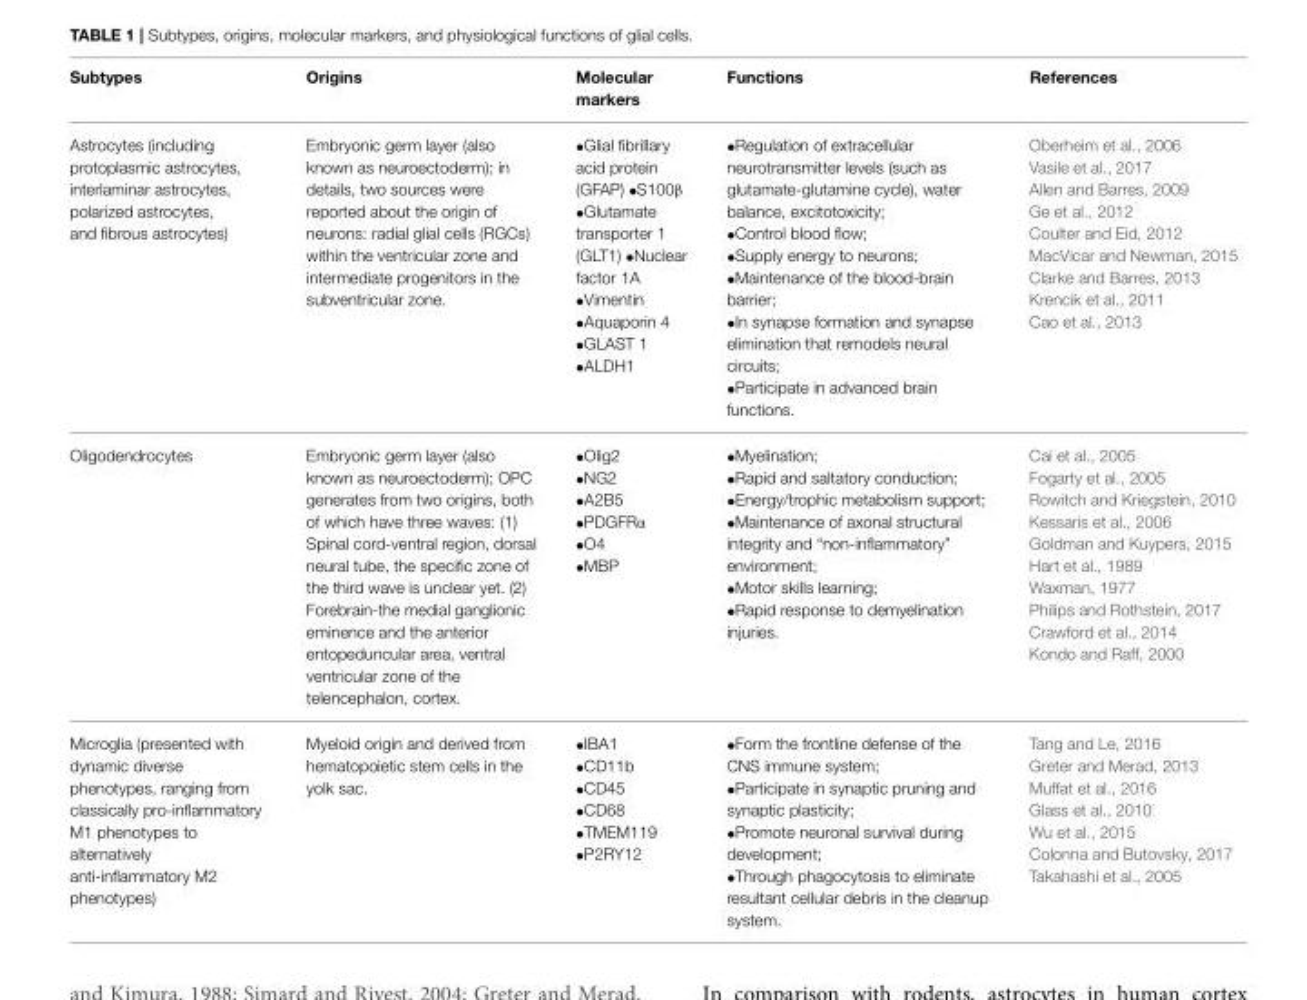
<table><thead><tr><td>Subtypes</td><td>Origins</td><td>Molecular markers</td><td>Functions</td><td>References</td></tr></thead><tbody><tr><td>Astrocytes (including protoplasmic astrocytes, interlaminar astrocytes, polarized astrocytes, and fibrous astrocytes)</td><td>Embryonic germ layer (also known as neuroectoderm); in details, two sources were reported about the origin of neurons: radial glial cells (RGCs) within the ventricular zone and intermediate progenitors in the subventricular zone.</td><td>•Glial fibrillary acid protein (GFAP) •S100β •Glutamate transporter 1 (GLT1) •Nuclear factor 1A •Vimentin •Aquaporin 4 •GLAST 1 •ALDH1</td><td>•Regulation of extracellular neurotransmitter levels (such as glutamate-glutamine cycle), water balance, excitotoxicity; •Control blood flow; •Supply energy to neurons; •Maintenance of the blood-brain barrier; •In synapse formation and synapse elimination that remodels neural circuits; •Participate in advanced brain functions.</td><td>Oberheim et al., 2006 Vasile et al., 2017 Allen and Barres, 2009 Ge et al., 2012 Coulter and Eid, 2012 MacVicar and Newman, 2015 Clarke and Barres, 2013 Krencik et al., 2011 Cao et al., 2013</td></tr><tr><td>Oligodendrocytes</td><td>Embryonic germ layer (also known as neuroectoderm); OPC generates from two origins, both of which have three waves: (1) Spinal cord-ventral region, dorsal neural tube, the specific zone of the third wave is unclear yet. (2) Forebrain-the medial ganglionic eminence and the anterior entopeduncular area, ventral ventricular zone of the telencephalon, cortex.</td><td>•Olig2 •NG2 •A2B5 •PDGFRα •O4 •MBP</td><td>•Myelination; •Rapid and saltatory conduction; •Energy/trophic metabolism support; •Maintenance of axonal structural integrity and “non-inflammatory” environment; •Motor skills learning; •Rapid response to demyelination injuries.</td><td>Cai et al., 2005 Fogarty et al., 2005 Rowitch and Kriegstein, 2010 Kessaris et al., 2006 Goldman and Kuypers, 2015 Hart et al., 1989 Waxman, 1977 Philips and Rothstein, 2017 Crawford et al., 2014 Kondo and Raff, 2000</td></tr><tr><td>Microglia (presented with dynamic diverse phenotypes, ranging from classically pro-inflammatory M1 phenotypes to alternatively anti-inflammatory M2 phenotypes)</td><td>Myeloid origin and derived from hematopoietic stem cells in the yolk sac.</td><td>•IBA1 •CD11b •CD45 •CD68 •TMEM119 •P2RY12</td><td>•Form the frontline defense of the CNS immune system; •Participate in synaptic pruning and synaptic plasticity; •Promote neuronal survival during development; •Through phagocytosis to eliminate resultant cellular debris in the cleanup system.</td><td>Tang and Le, 2016 Greter and Merad, 2013 Muffat et al., 2016 Glass et al., 2010 Wu et al., 2015 Colonna and Butovsky, 2017 Takahashi et al., 2005</td></tr></tbody></table>